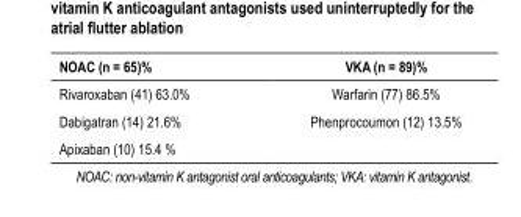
<table><thead><tr><td>NOAC (n = 65)%</td><td>VKA (n = 89)%</td></tr></thead><tbody><tr><td>Rivaroxaban (41) 63.0%</td><td>Warfarin (77) 86.5%</td></tr><tr><td>Dabigatran (14) 21.6%</td><td>Phenprocoumon (12) 13.5%</td></tr><tr><td>Apixaban (10) 15.4 %</td><td></td></tr></tbody></table>